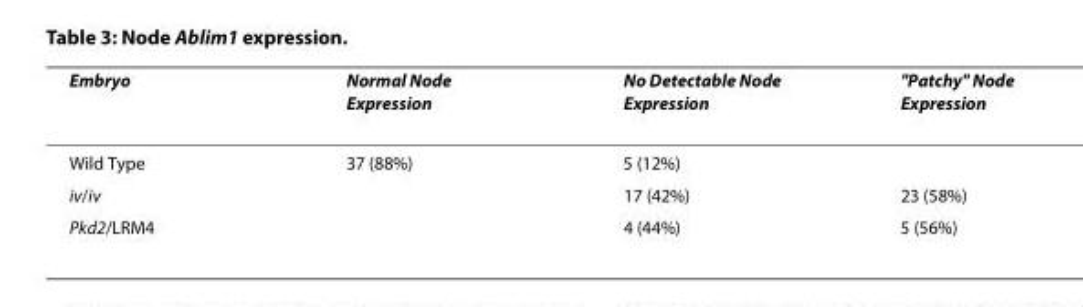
<table><thead><tr><td>Embryo</td><td>Normal Node Expression</td><td>No Detectable Node Expression</td><td>&quot;Patchy&quot; Node Expression</td></tr></thead><tbody><tr><td>Wild Type</td><td>37 (88%)</td><td>5 (12%)</td><td></td></tr><tr><td>iv/iv</td><td></td><td>17 (42%)</td><td>23 (58%)</td></tr><tr><td>Pkd2/LRM4</td><td></td><td>4 (44%)</td><td>5 (56%)</td></tr></tbody></table>